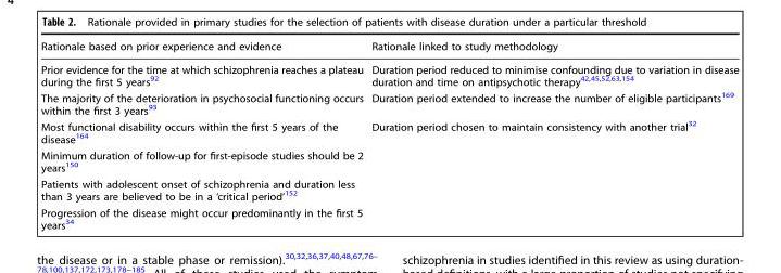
<table><thead><tr><td>Rationale based on prior experience and evidence</td><td>Rationale linked to study methodology</td></tr></thead><tbody><tr><td>Prior evidence for the time at which schizophrenia reaches a plateau during the first 5 years<sup>92</sup></td><td>Duration period reduced to minimise confounding due to variation in disease duration and time on antipsychotic therapy<sup>42,45,52,63,154</sup></td></tr><tr><td>The majority of the deterioration in psychosocial functioning occurs within the first 3 years<sup>93</sup></td><td>Duration period extended to increase the number of eligible participants<sup>169</sup></td></tr><tr><td>Most functional disability occurs within the first 5 years of the disease<sup>164</sup></td><td>Duration period chosen to maintain consistency with another trial<sup>32</sup></td></tr><tr><td colspan="2">Minimum duration of follow-up for first-episode studies should be 2 years<sup>150</sup></td></tr><tr><td colspan="2">Patients with adolescent onset of schizophrenia and duration less than 3 years are believed to be in a ‘critical period’<sup>152</sup></td></tr><tr><td>Progression of the disease might occur predominantly in the first 5 years<sup>34</sup></td><td></td></tr></tbody></table>